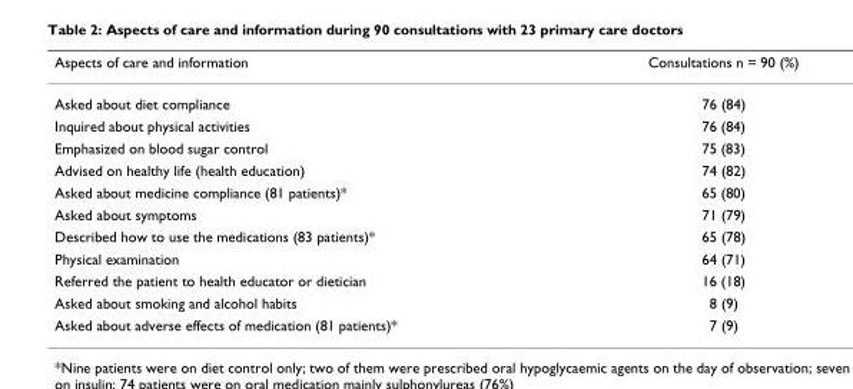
<table><thead><tr><td>Aspects of care and information</td><td>Consultations n = 90 (%)</td></tr></thead><tbody><tr><td>Asked about diet compliance</td><td>76 (84)</td></tr><tr><td>Inquired about physical activities</td><td>76 (84)</td></tr><tr><td>Emphasized on blood sugar control</td><td>75 (83)</td></tr><tr><td>Advised on healthy life (health education)</td><td>74 (82)</td></tr><tr><td>Asked about medicine compliance (81 patients)*</td><td>65 (80)</td></tr><tr><td>Asked about symptoms</td><td>71 (79)</td></tr><tr><td>Described how to use the medications (83 patients)*</td><td>65 (78)</td></tr><tr><td>Physical examination</td><td>64 (71)</td></tr><tr><td>Referred the patient to health educator or dietician</td><td>16 (18)</td></tr><tr><td>Asked about smoking and alcohol habits</td><td>8 (9)</td></tr><tr><td>Asked about adverse effects of medication (81 patients)*</td><td>7 (9)</td></tr></tbody></table>